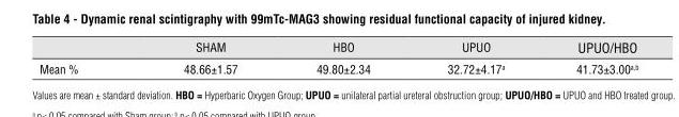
<table><thead><tr><td></td><td>SHAM</td><td>HBO</td><td>UPUO</td><td>UPUO/HBO</td></tr></thead><tbody><tr><td>Mean %</td><td>48.66±1.57</td><td>49.80±2.34</td><td>32.72±4.17<sup>a</sup></td><td>41.73±3.00<sup>a</sup>,<sup>b</sup></td></tr></tbody></table>